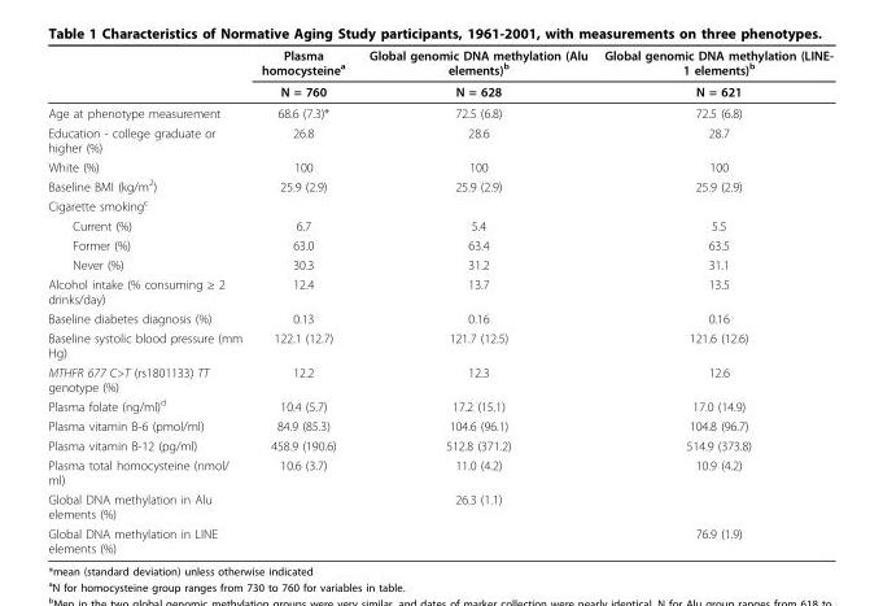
<table><thead><tr><td rowspan="2"></td><td rowspan="2">Plasma homocysteine<sup>a</sup> N = 760</td><td rowspan="2">Global genomic DNA methylation (Alu elements)<sup>b</sup> N = 628</td><td rowspan="2">Global genomic DNA methylation (LINE- 1 elements)<sup>b</sup> N = 621</td></tr><tr></tr></thead><tbody><tr><td>Age at phenotype measurement</td><td>68.6 (7.3)*</td><td>72.5 (6.8)</td><td>72.5 (6.8)</td></tr><tr><td>Education - college graduate or higher (%)</td><td>26.8</td><td>28.6</td><td>28.7</td></tr><tr><td>White (%)</td><td>100</td><td>100</td><td>100</td></tr><tr><td>Baseline BMI (kg/m<sup>2</sup>)</td><td>25.9 (2.9)</td><td>25.9 (2.9)</td><td>25.9 (2.9)</td></tr><tr><td colspan="4">Cigarette smoking<sup>c</sup></td></tr><tr><td>Current (%)</td><td>6.7</td><td>5.4</td><td>5.5</td></tr><tr><td>Former (%)</td><td>63.0</td><td>63.4</td><td>63.5</td></tr><tr><td>Never (%)</td><td>30.3</td><td>31.2</td><td>31.1</td></tr><tr><td>Alcohol intake (% consuming ≥ 2 drinks/day)</td><td>12.4</td><td>13.7</td><td>13.5</td></tr><tr><td>Baseline diabetes diagnosis (%)</td><td>0.13</td><td>0.16</td><td>0.16</td></tr><tr><td>Baseline systolic blood pressure (mm Hg)</td><td>122.1 (12.7)</td><td>121.7 (12.5)</td><td>121.6 (12.6)</td></tr><tr><td>MTHFR 677 C&gt;T (rs1801133) TT genotype (%)</td><td>12.2</td><td>12.3</td><td>12.6</td></tr><tr><td>Plasma folate (ng/ml)<sup>d</sup></td><td>10.4 (5.7)</td><td>17.2 (15.1)</td><td>17.0 (14.9)</td></tr><tr><td>Plasma vitamin B-6 (pmol/ml)</td><td>84.9 (85.3)</td><td>104.6 (96.1)</td><td>104.8 (96.7)</td></tr><tr><td>Plasma vitamin B-12 (pg/ml)</td><td>458.9 (190.6)</td><td>512.8 (371.2)</td><td>514.9 (373.8)</td></tr><tr><td>Plasma total homocysteine (nmol/ ml)</td><td>10.6 (3.7)</td><td>11.0 (4.2)</td><td>10.9 (4.2)</td></tr><tr><td>Global DNA methylation in Alu elements (%)</td><td></td><td>26.3 (1.1)</td><td></td></tr><tr><td>Global DNA methylation in LINE elements (%)</td><td></td><td></td><td>76.9 (1.9)</td></tr></tbody></table>